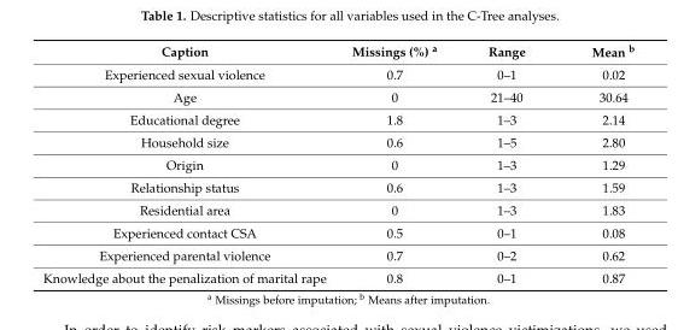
<table><thead><tr><td>Caption</td><td>Missings (%) <sup>a</sup></td><td>Range</td><td>Mean <sup>b</sup></td></tr></thead><tbody><tr><td>Experienced sexual violence</td><td>0.7</td><td>0–1</td><td>0.02</td></tr><tr><td>Age</td><td>0</td><td>21–40</td><td>30.64</td></tr><tr><td>Educational degree</td><td>1.8</td><td>1–3</td><td>2.14</td></tr><tr><td>Household size</td><td>0.6</td><td>1–5</td><td>2.80</td></tr><tr><td>Origin</td><td>0</td><td>1–3</td><td>1.29</td></tr><tr><td>Relationship status</td><td>0.6</td><td>1–3</td><td>1.59</td></tr><tr><td>Residential area</td><td>0</td><td>1–3</td><td>1.83</td></tr><tr><td>Experienced contact CSA</td><td>0.5</td><td>0–1</td><td>0.08</td></tr><tr><td>Experienced parental violence</td><td>0.7</td><td>0–2</td><td>0.62</td></tr><tr><td>Knowledge about the penalization of marital rape</td><td>0.8</td><td>0–1</td><td>0.87</td></tr></tbody></table>